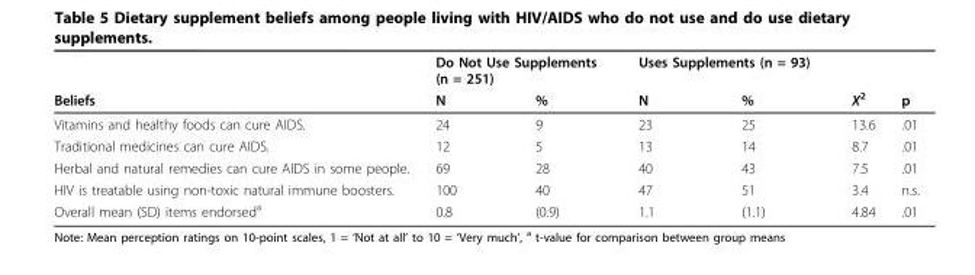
<table><thead><tr><td rowspan="2">Beliefs</td><td colspan="2">Do Not Use Supplements (n = 251)</td><td colspan="2">Uses Supplements (n = 93)</td><td rowspan="2">X<sup>2</sup></td><td rowspan="2">p</td></tr><tr><td>N</td><td>%</td><td>N</td><td>%</td></tr></thead><tbody><tr><td>Vitamins and healthy foods can cure AIDS.</td><td>24</td><td>9</td><td>23</td><td>25</td><td>13.6</td><td>.01</td></tr><tr><td>Traditional medicines can cure AIDS.</td><td>12</td><td>5</td><td>13</td><td>14</td><td>8.7</td><td>.01</td></tr><tr><td>Herbal and natural remedies can cure AIDS in some people.</td><td>69</td><td>28</td><td>40</td><td>43</td><td>7.5</td><td>.01</td></tr><tr><td>HIV is treatable using non-toxic natural immune boosters.</td><td>100</td><td>40</td><td>47</td><td>51</td><td>3.4</td><td>n.s.</td></tr><tr><td>Overall mean (SD) items endorsed<sup>a</sup></td><td>0.8</td><td>(0.9)</td><td>1.1</td><td>(1.1)</td><td>4.84</td><td>.01</td></tr></tbody></table>